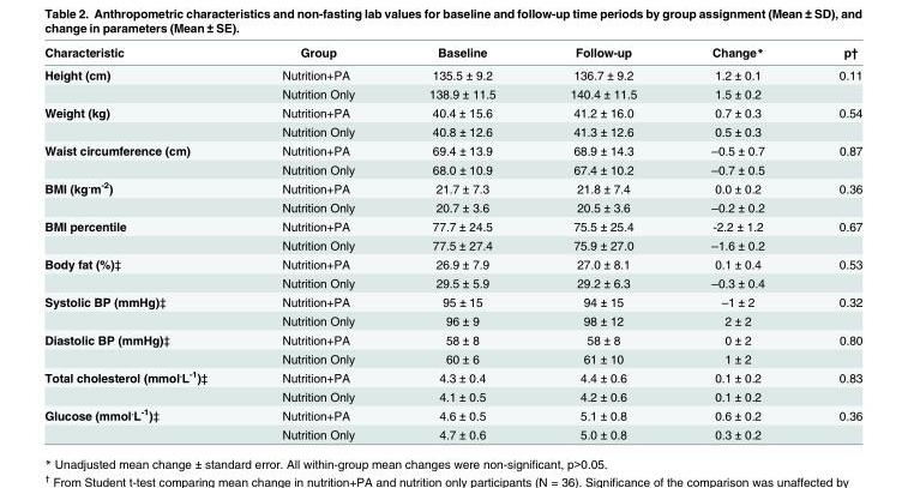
<table><thead><tr><td>Characteristic</td><td>Group</td><td>Baseline</td><td>Follow-up</td><td>Change*</td><td>p†</td></tr></thead><tbody><tr><td rowspan="2">Height (cm)</td><td>Nutrition+PA</td><td>135.5 ± 9.2</td><td>136.7 ± 9.2</td><td>1.2 ± 0.1</td><td>0.11</td></tr><tr><td>Nutrition Only</td><td>138.9 ± 11.5</td><td>140.4 ± 11.5</td><td>1.5 ± 0.2</td><td></td></tr><tr><td rowspan="2">Weight (kg)</td><td>Nutrition+PA</td><td>40.4 ± 15.6</td><td>41.2 ± 16.0</td><td>0.7 ± 0.3</td><td>0.54</td></tr><tr><td>Nutrition Only</td><td>40.8 ± 12.6</td><td>41.3 ± 12.6</td><td>0.5 ± 0.3</td><td></td></tr><tr><td rowspan="2">Waist circumference (cm)</td><td>Nutrition+PA</td><td>69.4 ± 13.9</td><td>68.9 ± 14.3</td><td>–0.5 ± 0.7</td><td>0.87</td></tr><tr><td>Nutrition Only</td><td>68.0 ± 10.9</td><td>67.4 ± 10.2</td><td>–0.7 ± 0.5</td><td></td></tr><tr><td rowspan="2">BMI (kg<sup>.</sup>m<sup>-2</sup>)</td><td>Nutrition+PA</td><td>21.7 ± 7.3</td><td>21.8 ± 7.4</td><td>0.0 ± 0.2</td><td>0.36</td></tr><tr><td>Nutrition Only</td><td>20.7 ± 3.6</td><td>20.5 ± 3.6</td><td>–0.2 ± 0.2</td><td></td></tr><tr><td rowspan="2">BMI percentile</td><td>Nutrition+PA</td><td>77.7 ± 24.5</td><td>75.5 ± 25.4</td><td>-2.2 ± 1.2</td><td>0.67</td></tr><tr><td>Nutrition Only</td><td>77.5 ± 27.4</td><td>75.9 ± 27.0</td><td>–1.6 ± 0.2</td><td></td></tr><tr><td rowspan="2">Body fat (%)‡</td><td>Nutrition+PA</td><td>26.9 ± 7.9</td><td>27.0 ± 8.1</td><td>0.1 ± 0.4</td><td>0.53</td></tr><tr><td>Nutrition Only</td><td>29.5 ± 5.9</td><td>29.2 ± 6.3</td><td>–0.3 ± 0.4</td><td></td></tr><tr><td rowspan="2">Systolic BP (mmHg)‡</td><td>Nutrition+PA</td><td>95 ± 15</td><td>94 ± 15</td><td>–1 ± 2</td><td>0.32</td></tr><tr><td>Nutrition Only</td><td>96 ± 9</td><td>98 ± 12</td><td>2 ± 2</td><td></td></tr><tr><td rowspan="2">Diastolic BP (mmHg)‡</td><td>Nutrition+PA</td><td>58 ± 8</td><td>58 ± 8</td><td>0 ± 2</td><td>0.80</td></tr><tr><td>Nutrition Only</td><td>60 ± 6</td><td>61 ± 10</td><td>1 ± 2</td><td></td></tr><tr><td rowspan="2">Total cholesterol (mmol<sup>.</sup>L<sup>-1</sup>)‡</td><td>Nutrition+PA</td><td>4.3 ± 0.4</td><td>4.4 ± 0.6</td><td>0.1 ± 0.2</td><td>0.83</td></tr><tr><td>Nutrition Only</td><td>4.1 ± 0.5</td><td>4.2 ± 0.6</td><td>0.1 ± 0.2</td><td></td></tr><tr><td rowspan="2">Glucose (mmol<sup>.</sup>L<sup>-1</sup>)‡</td><td>Nutrition+PA</td><td>4.6 ± 0.5</td><td>5.1 ± 0.8</td><td>0.6 ± 0.2</td><td>0.36</td></tr><tr><td>Nutrition Only</td><td>4.7 ± 0.6</td><td>5.0 ± 0.8</td><td>0.3 ± 0.2</td><td></td></tr></tbody></table>